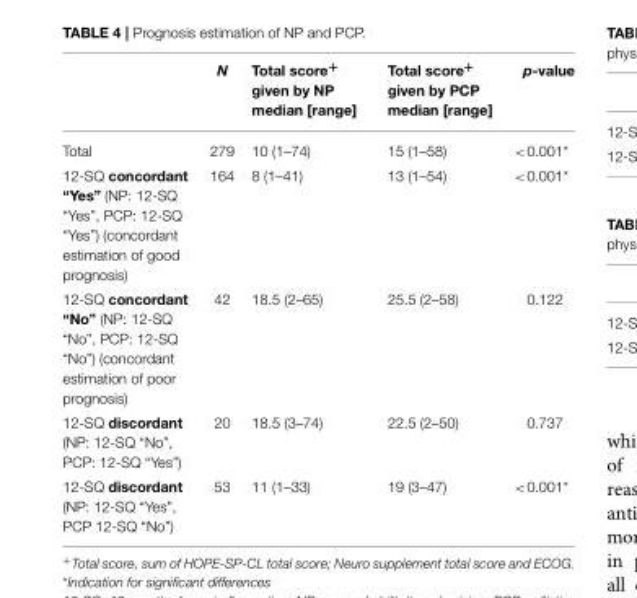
<table><thead><tr><td></td><td>N</td><td>Total score<sup>+</sup> given by NP median [range]</td><td>Total score<sup>+</sup> given by PCP median [range]</td><td>p-value</td></tr></thead><tbody><tr><td>Total</td><td>279</td><td>10 (1–74)</td><td>15 (1–58)</td><td>&lt;0.001*</td></tr><tr><td>12-SQ concordant “Yes” (NP: 12-SQ “Yes”, PCP: 12-SQ “Yes”) (concordant estimation of good prognosis)</td><td>164</td><td>8 (1–41)</td><td>13 (1–54)</td><td>&lt;0.001*</td></tr><tr><td>12-SQ concordant “No” (NP: 12-SQ “No”, PCP: 12-SQ “No”) (concordant estimation of poor prognosis)</td><td>42</td><td>18.5 (2–65)</td><td>25.5 (2–58)</td><td>0.122</td></tr><tr><td>12-SQ discordant (NP: 12-SQ “No”, PCP: 12-SQ “Yes”)</td><td>20</td><td>18.5 (3–74)</td><td>22.5 (2–50)</td><td>0.737</td></tr><tr><td>12-SQ discordant (NP: 12-SQ “Yes”, PCP 12-SQ “No”)</td><td>53</td><td>11 (1–33)</td><td>19 (3–47)</td><td>&lt;0.001*</td></tr></tbody></table>